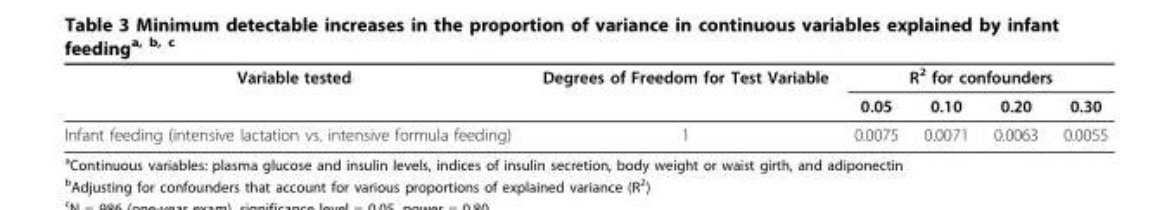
<table><thead><tr><td rowspan="2">Variable tested</td><td rowspan="2">Degrees of Freedom for Test Variable</td><td colspan="4">R<sup>2</sup> for confounders</td></tr><tr><td>0.05</td><td>0.10</td><td>0.20</td><td>0.30</td></tr></thead><tbody><tr><td>Infant feeding (intensive lactation vs. intensive formula feeding)</td><td>1</td><td>0.0075</td><td>0.0071</td><td>0.0063</td><td>0.0055</td></tr></tbody></table>